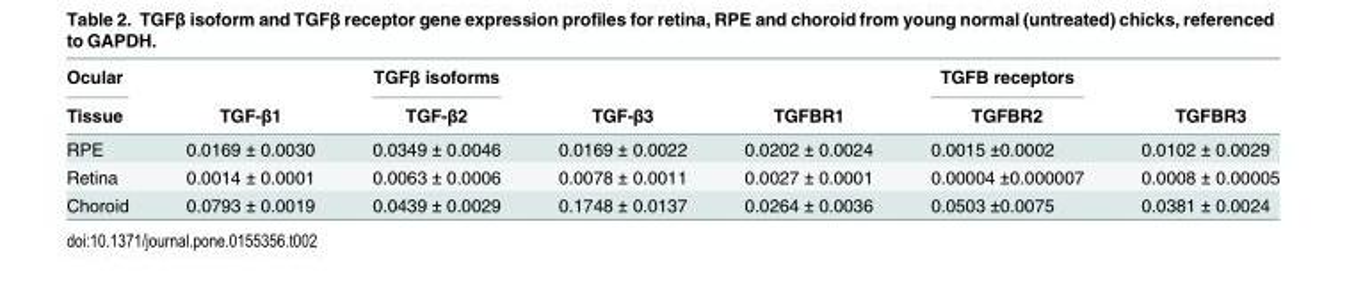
<table><thead><tr><td rowspan="2">Ocular Tissue</td><td rowspan="2">TGF-β1</td><td rowspan="2">TGFβ isoforms TGF-β2</td><td rowspan="2">TGF-β3</td><td rowspan="2">TGFBR1</td><td rowspan="2">TGFB receptors TGFBR2</td><td rowspan="2">TGFBR3</td></tr><tr></tr></thead><tbody><tr><td>RPE</td><td>0.0169 ± 0.0030</td><td>0.0349 ± 0.0046</td><td>0.0169 ± 0.0022</td><td>0.0202 ± 0.0024</td><td>0.0015 ±0.0002</td><td>0.0102 ± 0.0029</td></tr><tr><td>Retina</td><td>0.0014 ± 0.0001</td><td>0.0063 ± 0.0006</td><td>0.0078 ± 0.0011</td><td>0.0027 ± 0.0001</td><td>0.00004 ±0.000007</td><td>0.0008 ± 0.00005</td></tr><tr><td>Choroid</td><td>0.0793 ± 0.0019</td><td>0.0439 ± 0.0029</td><td>0.1748 ± 0.0137</td><td>0.0264 ± 0.0036</td><td>0.0503 ±0.0075</td><td>0.0381 ± 0.0024</td></tr></tbody></table>